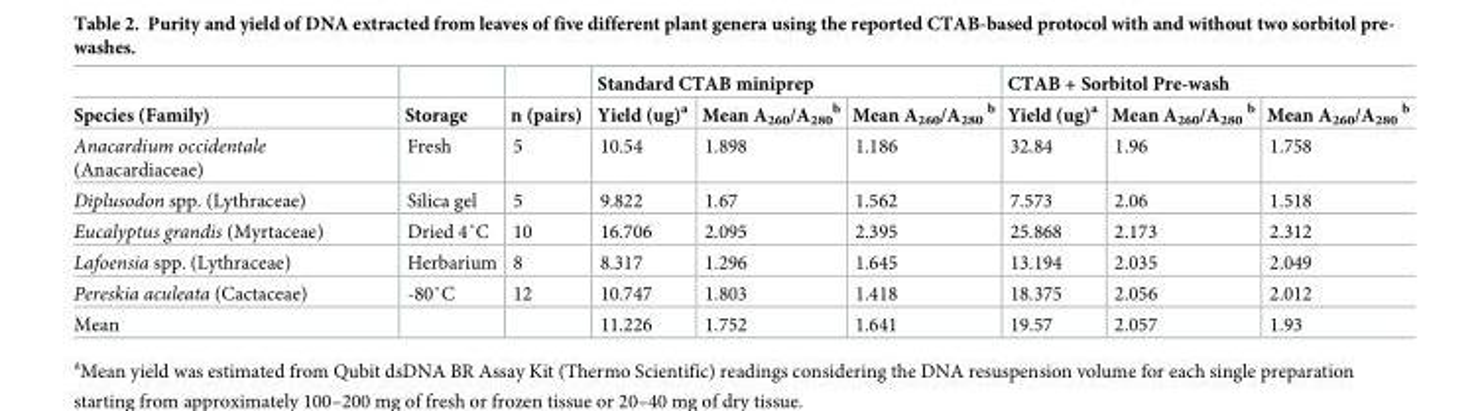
<table><thead><tr><td rowspan="2">Species (Family)</td><td rowspan="2">Storage</td><td rowspan="2">n (pairs)</td><td colspan="3">Standard CTAB miniprep</td><td colspan="3">CTAB + Sorbitol Pre-wash</td></tr><tr><td>Yield (ug)<sup>a</sup></td><td>Mean A<sub>260</sub>/A<sub>280</sub> <sup>b</sup></td><td>Mean A<sub>260</sub>/A<sub>280</sub> <sup>b</sup></td><td>Yield (ug)<sup>a</sup></td><td>Mean A<sub>260</sub>/A<sub>280</sub> <sup>b</sup></td><td>Mean A<sub>260</sub>/A<sub>280</sub> <sup>b</sup></td></tr></thead><tbody><tr><td>Anacardium occidentale (Anacardiaceae)</td><td>Fresh</td><td>5</td><td>10.54</td><td>1.898</td><td>1.186</td><td>32.84</td><td>1.96</td><td>1.758</td></tr><tr><td>Diplusodon spp. (Lythraceae)</td><td>Silica gel</td><td>5</td><td>9.822</td><td>1.67</td><td>1.562</td><td>7.573</td><td>2.06</td><td>1.518</td></tr><tr><td>Eucalyptus grandis (Myrtaceae)</td><td>Dried 4˚C</td><td>10</td><td>16.706</td><td>2.095</td><td>2.395</td><td>25.868</td><td>2.173</td><td>2.312</td></tr><tr><td>Lafoensia spp. (Lythraceae)</td><td>Herbarium</td><td>8</td><td>8.317</td><td>1.296</td><td>1.645</td><td>13.194</td><td>2.035</td><td>2.049</td></tr><tr><td>Pereskia aculeata (Cactaceae)</td><td>-80˚C</td><td>12</td><td>10.747</td><td>1.803</td><td>1.418</td><td>18.375</td><td>2.056</td><td>2.012</td></tr><tr><td>Mean</td><td></td><td></td><td>11.226</td><td>1.752</td><td>1.641</td><td>19.57</td><td>2.057</td><td>1.93</td></tr></tbody></table>